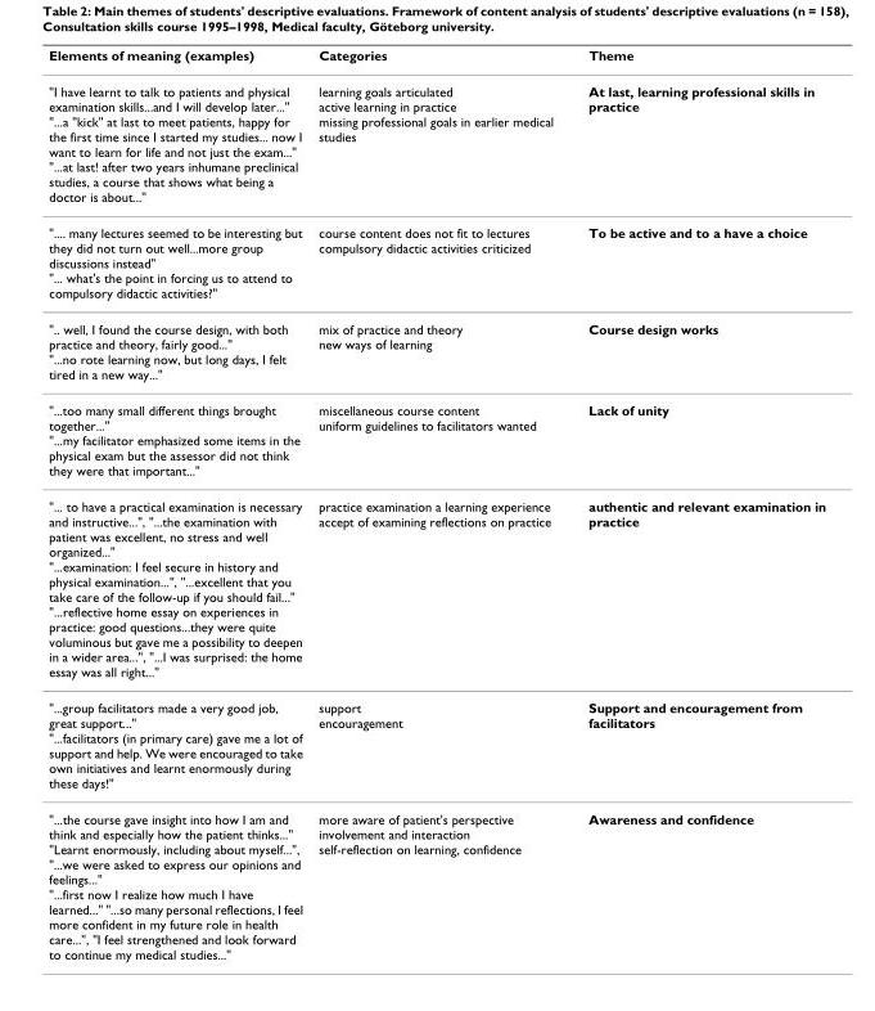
<table><thead><tr><td>Elements of meaning (examples)</td><td>Categories</td><td>Theme</td></tr></thead><tbody><tr><td>&quot;I have learnt to talk to patients and physical examination skills...and I will develop later...&quot; &quot;...a &quot;kick&quot; at last to meet patients, happy for the first time since I started my studies... now I want to learn for life and not just the exam...&quot; &quot;...at last! after two years inhumane preclinical studies, a course that shows what being a doctor is about...&quot;</td><td>learning goals articulated active learning in practice missing professional goals in earlier medical studies</td><td>At last, learning professional skills in practice</td></tr><tr><td>&quot;.... many lectures seemed to be interesting but they did not turn out well...more group discussions instead&quot; &quot;... what&#x27;s the point in forcing us to attend to compulsory didactic activities?&quot;</td><td>course content does not fit to lectures compulsory didactic activities criticized</td><td>To be active and to a have a choice</td></tr><tr><td>&quot;.. well, I found the course design, with both practice and theory, fairly good...&quot; &quot;...no rote learning now, but long days, I felt tired in a new way...&quot;</td><td>mix of practice and theory new ways of learning</td><td>Course design works</td></tr><tr><td>&quot;...too many small different things brought together...&quot; &quot;...my facilitator emphasized some items in the physical exam but the assessor did not think they were that important...&quot;</td><td>miscellaneous course content uniform guidelines to facilitators wanted</td><td>Lack of unity</td></tr><tr><td>&quot;... to have a practical examination is necessary and instructive...&quot;, &quot;...the examination with patient was excellent, no stress and well organized...&quot; &quot;...examination: I feel secure in history and physical examination...&quot;, &quot;...excellent that you take care of the follow-up if you should fail...&quot; &quot;...reflective home essay on experiences in practice: good questions...they were quite voluminous but gave me a possibility to deepen in a wider area...&quot;, &quot;...I was surprised: the home essay was all right...&quot;</td><td>practice examination a learning experience accept of examining reflections on practice</td><td>authentic and relevant examination in practice</td></tr><tr><td>&quot;...group facilitators made a very good job, great support...&quot; &quot;...facilitators (in primary care) gave me a lot of support and help. We were encouraged to take own initiatives and learnt enormously during these days!&quot;</td><td>support encouragement</td><td>Support and encouragement from facilitators</td></tr><tr><td>&quot;...the course gave insight into how I am and think and especially how the patient thinks...&quot; &quot;Learnt enormously, including about myself...&quot;, &quot;...we were asked to express our opinions and feelings...&quot; &quot;...first now I realize how much I have learned...&quot; &quot;...so many personal reflections, I feel more confident in my future role in health care...&quot;, &quot;I feel strengthened and look forward to continue my medical studies...&quot;</td><td>more aware of patient&#x27;s perspective involvement and interaction self-reflection on learning, confidence</td><td>Awareness and confidence</td></tr></tbody></table>